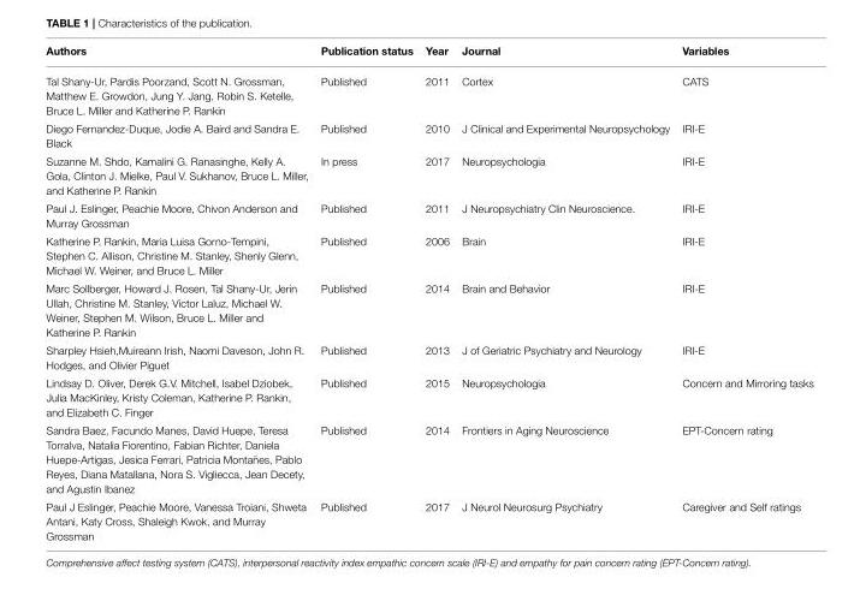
<table><thead><tr><td>Authors</td><td>Publication status</td><td>Year</td><td>Journal</td><td>Variables</td></tr></thead><tbody><tr><td>Tal Shany-Ur, Pardis Poorzand, Scott N. Grossman, Matthew E. Growdon, Jung Y. Jang, Robin S. Ketelle, Bruce L. Miller and Katherine P. Rankin</td><td>Published</td><td>2011</td><td>Cortex</td><td>CATS</td></tr><tr><td>Diego Fernandez-Duque, Jodie A. Baird and Sandra E. Black</td><td>Published</td><td>2010</td><td>J Clinical and Experimental Neuropsychology</td><td>IRI-E</td></tr><tr><td>Suzanne M. Shdo, Kamalini G. Ranasinghe, Kelly A. Gola, Clinton J. Mielke, Paul V. Sukhanov, Bruce L. Miller, and Katherine P. Rankin</td><td>In press</td><td>2017</td><td>Neuropsychologia</td><td>IRI-E</td></tr><tr><td>Paul J. Eslinger, Peachie Moore, Chivon Anderson and Murray Grossman</td><td>Published</td><td>2011</td><td>J Neuropsychiatry Clin Neuroscience.</td><td>IRI-E</td></tr><tr><td>Katherine P. Rankin, Maria Luisa Gorno-Tempini, Stephen C. Allison, Christine M. Stanley, Shenly Glenn, Michael W. Weiner, and Bruce L. Miller</td><td>Published</td><td>2006</td><td>Brain</td><td>IRI-E</td></tr><tr><td>Marc Sollberger, Howard J. Rosen, Tal Shany-Ur, Jerin Ullah, Christine M. Stanley, Victor Laluz, Michael W. Weiner, Stephen M. Wilson, Bruce L. Miller and Katherine P. Rankin</td><td>Published</td><td>2014</td><td>Brain and Behavior</td><td>IRI-E</td></tr><tr><td>Sharpley Hsieh,Muireann Irish, Naomi Daveson, John R. Hodges, and Olivier Piguet</td><td>Published</td><td>2013</td><td>J of Geriatric Psychiatry and Neurology</td><td>IRI-E</td></tr><tr><td>Lindsay D. Oliver, Derek G.V. Mitchell, Isabel Dziobek, Julia MacKinley, Kristy Coleman, Katherine P. Rankin, and Elizabeth C. Finger</td><td>Published</td><td>2015</td><td>Neuropsychologia</td><td>Concern and Mirroring tasks</td></tr><tr><td>Sandra Baez, Facundo Manes, David Huepe, Teresa Torralva, Natalia Fiorentino, Fabian Richter, Daniela Huepe-Artigas, Jesica Ferrari, Patricia Montañes, Pablo Reyes, Diana Matallana, Nora S. Vigliecca, Jean Decety, and Agustin Ibanez</td><td>Published</td><td>2014</td><td>Frontiers in Aging Neuroscience</td><td>EPT-Concern rating</td></tr><tr><td>Paul J Eslinger, Peachie Moore, Vanessa Troiani, Shweta Antani, Katy Cross, Shaleigh Kwok, and Murray Grossman</td><td>Published</td><td>2017</td><td>J Neurol Neurosurg Psychiatry</td><td>Caregiver and Self ratings</td></tr></tbody></table>